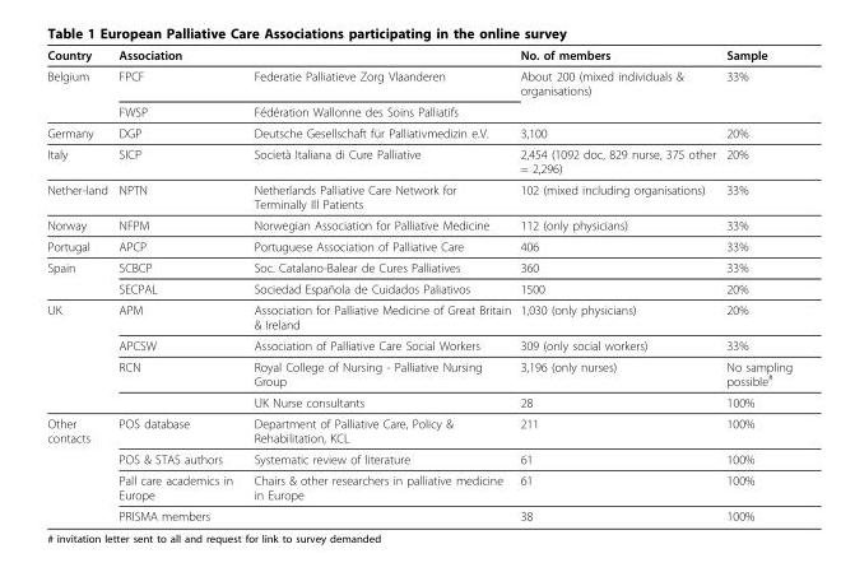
<table><thead><tr><td rowspan="2">Country Belgium</td><td colspan="2">Association</td><td rowspan="2">No. of members About 200 (mixed individuals &amp; organisations)</td><td rowspan="2">Sample 33%</td></tr><tr><td>FPCF</td><td>Federatie Palliatieve Zorg Vlaanderen</td></tr></thead><tbody><tr><td></td><td>FWSP</td><td>Fédération Wallonne des Soins Palliatifs</td><td></td><td></td></tr><tr><td>Germany</td><td>DGP</td><td>Deutsche Gesellschaft für Palliativmedizin e.V.</td><td>3,100</td><td>20%</td></tr><tr><td>Italy</td><td>SICP</td><td>Società Italiana di Cure Palliative</td><td>2,454 (1092 doc, 829 nurse, 375 other = 2,296)</td><td>20%</td></tr><tr><td>Nether-land</td><td>NPTN</td><td>Netherlands Palliative Care Network for Terminally Ill Patients</td><td>102 (mixed including organisations)</td><td>33%</td></tr><tr><td>Norway</td><td>NFPM</td><td>Norwegian Association for Palliative Medicine</td><td>112 (only physicians)</td><td>33%</td></tr><tr><td>Portugal</td><td>APCP</td><td>Portuguese Association of Palliative Care</td><td>406</td><td>33%</td></tr><tr><td rowspan="2">Spain</td><td>SCBCP</td><td>Soc. Catalano-Balear de Cures Palliatives</td><td>360</td><td>33%</td></tr><tr><td>SECPAL</td><td>Sociedad Española de Cuidados Paliativos</td><td>1500</td><td>20%</td></tr><tr><td rowspan="4">UK</td><td>APM</td><td>Association for Palliative Medicine of Great Britain &amp; Ireland</td><td>1,030 (only physicians)</td><td>20%</td></tr><tr><td>APCSW</td><td>Association of Palliative Care Social Workers</td><td>309 (only social workers)</td><td>33%</td></tr><tr><td>RCN</td><td>Royal College of Nursing - Palliative Nursing Group</td><td>3,196 (only nurses)</td><td>No sampling possible<sup>#</sup></td></tr><tr><td></td><td>UK Nurse consultants</td><td>28</td><td>100%</td></tr><tr><td rowspan="4">Other contacts</td><td>POS database</td><td>Department of Palliative Care, Policy &amp; Rehabilitation, KCL</td><td>211</td><td>100%</td></tr><tr><td>POS &amp; STAS authors</td><td>Systematic review of literature</td><td>61</td><td>100%</td></tr><tr><td>Pall care academics in Europe</td><td>Chairs &amp; other researchers in palliative medicine in Europe</td><td>61</td><td>100%</td></tr><tr><td>PRISMA members</td><td></td><td>38</td><td>100%</td></tr></tbody></table>